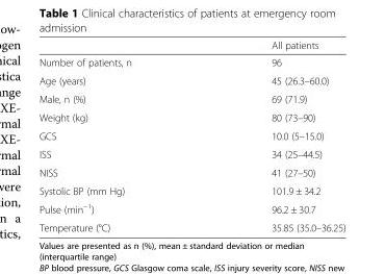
<table><thead><tr><td></td><td>All patients</td></tr></thead><tbody><tr><td>Number of patients, n</td><td>96</td></tr><tr><td>Age (years)</td><td>45 (26.3–60.0)</td></tr><tr><td>Male, n (%)</td><td>69 (71.9)</td></tr><tr><td>Weight (kg)</td><td>80 (73–90)</td></tr><tr><td>GCS</td><td>10.0 (5–15.0)</td></tr><tr><td>ISS</td><td>34 (25–44.5)</td></tr><tr><td>NISS</td><td>41 (27–50)</td></tr><tr><td>Systolic BP (mm Hg)</td><td>101.9 ± 34.2</td></tr><tr><td>Pulse (min<sup>−1</sup>)</td><td>96.2 ± 30.7</td></tr><tr><td>Temperature (°C)</td><td>35.85 (35.0–36.25)</td></tr></tbody></table>